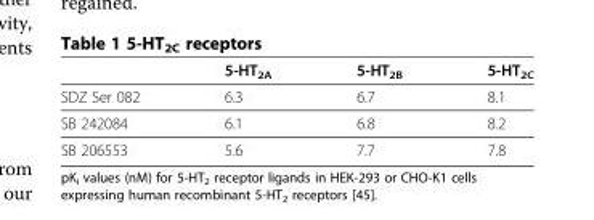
<table><thead><tr><td></td><td>5-HT<sub>2A</sub></td><td>5-HT<sub>2B</sub></td><td>5-HT<sub>2C</sub></td></tr></thead><tbody><tr><td>SDZ Ser 082</td><td>6.3</td><td>6.7</td><td>8.1</td></tr><tr><td>SB 242084</td><td>6.1</td><td>6.8</td><td>8.2</td></tr><tr><td>SB 206553</td><td>5.6</td><td>7.7</td><td>7.8</td></tr></tbody></table>